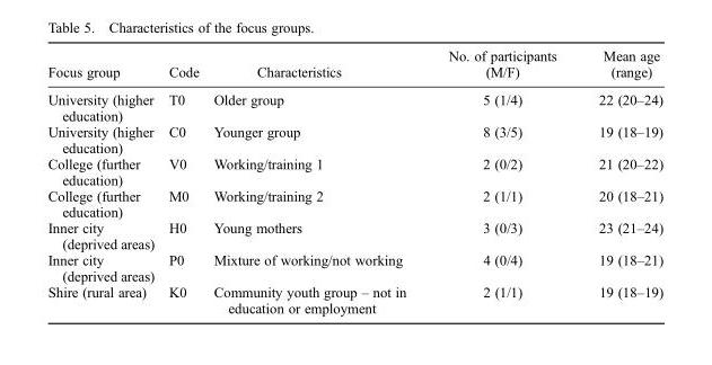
<table><thead><tr><td>Focus group</td><td>Code</td><td>Characteristics</td><td>No. of participants (M/F)</td><td>Mean age (range)</td></tr></thead><tbody><tr><td>University (higher education)</td><td>T0</td><td>Older group</td><td>5 (1/4)</td><td>22 (20–24)</td></tr><tr><td>University (higher education)</td><td>C0</td><td>Younger group</td><td>8 (3/5)</td><td>19 (18–19)</td></tr><tr><td>College (further education)</td><td>V0</td><td>Working/training 1</td><td>2 (0/2)</td><td>21 (20–22)</td></tr><tr><td>College (further education)</td><td>M0</td><td>Working/training 2</td><td>2 (1/1)</td><td>20 (18–21)</td></tr><tr><td>Inner city (deprived areas)</td><td>H0</td><td>Young mothers</td><td>3 (0/3)</td><td>23 (21–24)</td></tr><tr><td>Inner city (deprived areas)</td><td>P0</td><td>Mixture of working/not working</td><td>4 (0/4)</td><td>19 (18–21)</td></tr><tr><td>Shire (rural area)</td><td>K0</td><td>Community youth group – not in education or employment</td><td>2 (1/1)</td><td>19 (18–19)</td></tr></tbody></table>